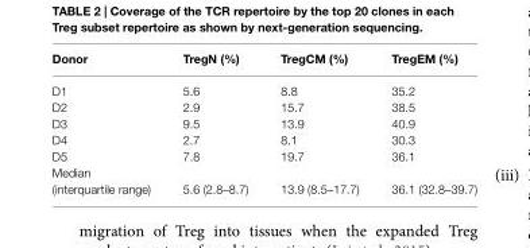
<table><thead><tr><td>Donor</td><td>TregN (%)</td><td>TregCM (%)</td><td>TregEM (%)</td></tr></thead><tbody><tr><td>D1</td><td>5.6</td><td>8.8</td><td>35.2</td></tr><tr><td>D2</td><td>2.9</td><td>15.7</td><td>38.5</td></tr><tr><td>D3</td><td>9.5</td><td>13.9</td><td>40.9</td></tr><tr><td>D4</td><td>2.7</td><td>8.1</td><td>30.3</td></tr><tr><td>D5</td><td>7.8</td><td>19.7</td><td>36.1</td></tr><tr><td>Median (interquartile range)</td><td>5.6 (2.8–8.7)</td><td>13.9 (8.5–17.7)</td><td>36.1 (32.8–39.7)</td></tr></tbody></table>